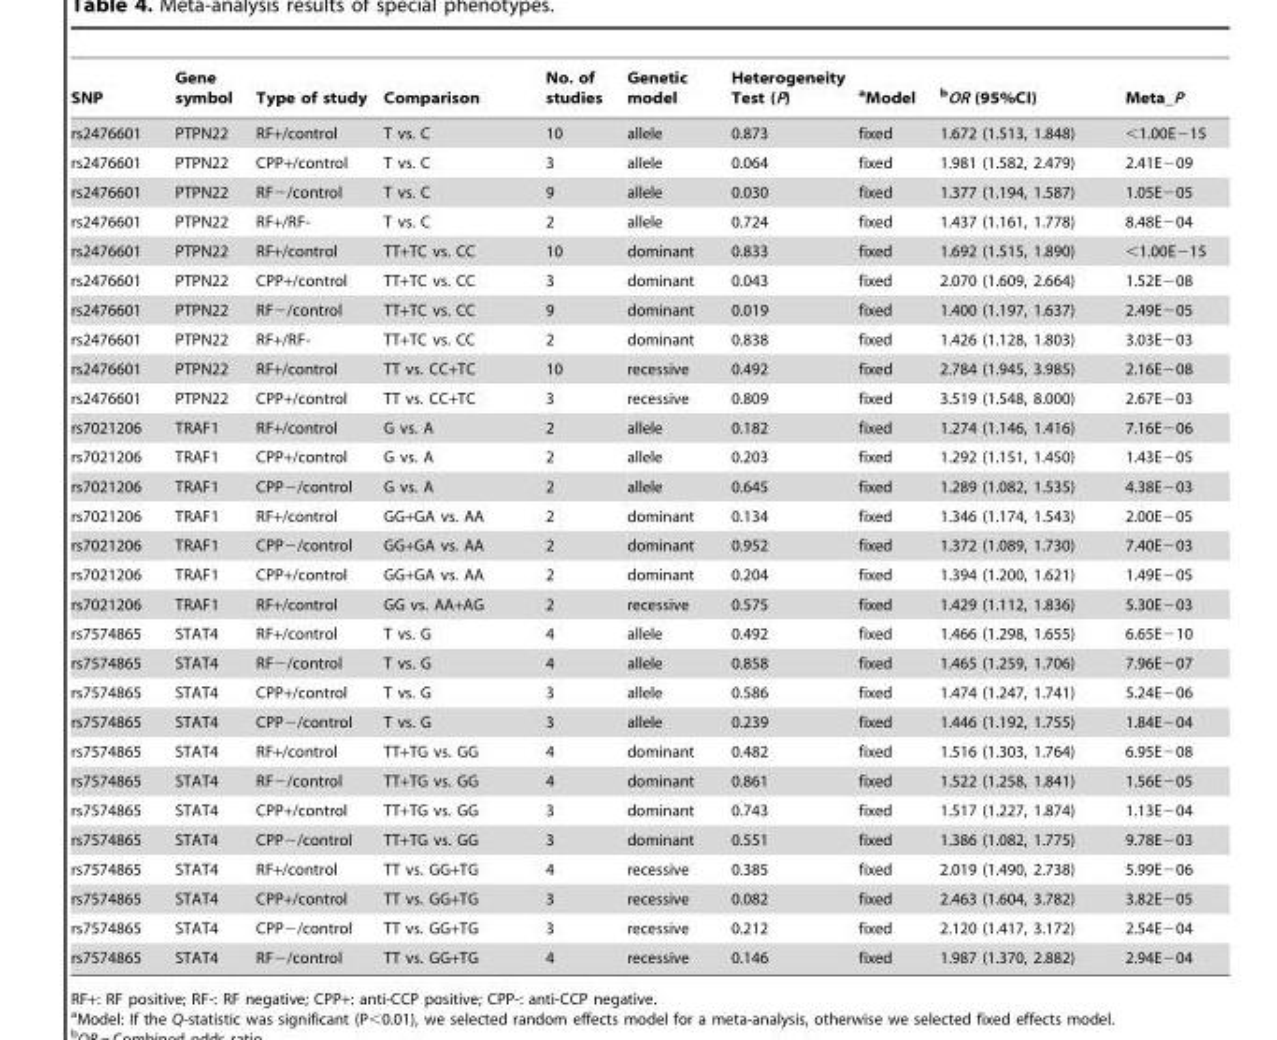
<table><thead><tr><td>SNP</td><td>Gene symbol</td><td>Type of study</td><td>Comparison</td><td>No. of studies</td><td>Genetic model</td><td>Heterogeneity Test (P)</td><td>aModel</td><td>bOR (95%CI)</td><td>Meta_P</td></tr></thead><tbody><tr><td>rs2476601</td><td>PTPN22</td><td>RF+/control</td><td>T vs. C</td><td>10</td><td>allele</td><td>0.873</td><td>fixed</td><td>1.672 (1.513, 1.848)</td><td>&lt;1.00E−15</td></tr><tr><td>rs2476601</td><td>PTPN22</td><td>CPP+/control</td><td>T vs. C</td><td>3</td><td>allele</td><td>0.064</td><td>fixed</td><td>1.981 (1.582, 2.479)</td><td>2.41E−09</td></tr><tr><td>rs2476601</td><td>PTPN22</td><td>RF−/control</td><td>T vs. C</td><td>9</td><td>allele</td><td>0.030</td><td>fixed</td><td>1.377 (1.194, 1.587)</td><td>1.05E−05</td></tr><tr><td>rs2476601</td><td>PTPN22</td><td>RF+/RF-</td><td>T vs. C</td><td>2</td><td>allele</td><td>0.724</td><td>fixed</td><td>1.437 (1.161, 1.778)</td><td>8.48E−04</td></tr><tr><td>rs2476601</td><td>PTPN22</td><td>RF+/control</td><td>TT+TC vs. CC</td><td>10</td><td>dominant</td><td>0.833</td><td>fixed</td><td>1.692 (1.515, 1.890)</td><td>&lt;1.00E−15</td></tr><tr><td>rs2476601</td><td>PTPN22</td><td>CPP+/control</td><td>TT+TC vs. CC</td><td>3</td><td>dominant</td><td>0.043</td><td>fixed</td><td>2.070 (1.609, 2.664)</td><td>1.52E−08</td></tr><tr><td>rs2476601</td><td>PTPN22</td><td>RF−/control</td><td>TT+TC vs. CC</td><td>9</td><td>dominant</td><td>0.019</td><td>fixed</td><td>1.400 (1.197, 1.637)</td><td>2.49E−05</td></tr><tr><td>rs2476601</td><td>PTPN22</td><td>RF+/RF-</td><td>TT+TC vs. CC</td><td>2</td><td>dominant</td><td>0.838</td><td>fixed</td><td>1.426 (1.128, 1.803)</td><td>3.03E−03</td></tr><tr><td>rs2476601</td><td>PTPN22</td><td>RF+/control</td><td>TT vs. CC+TC</td><td>10</td><td>recessive</td><td>0.492</td><td>fixed</td><td>2.784 (1.945, 3.985)</td><td>2.16E−08</td></tr><tr><td>rs2476601</td><td>PTPN22</td><td>CPP+/control</td><td>TT vs. CC+TC</td><td>3</td><td>recessive</td><td>0.809</td><td>fixed</td><td>3.519 (1.548, 8.000)</td><td>2.67E−03</td></tr><tr><td>rs7021206</td><td>TRAF1</td><td>RF+/control</td><td>G vs. A</td><td>2</td><td>allele</td><td>0.182</td><td>fixed</td><td>1.274 (1.146, 1.416)</td><td>7.16E−06</td></tr><tr><td>rs7021206</td><td>TRAF1</td><td>CPP+/control</td><td>G vs. A</td><td>2</td><td>allele</td><td>0.203</td><td>fixed</td><td>1.292 (1.151, 1.450)</td><td>1.43E−05</td></tr><tr><td>rs7021206</td><td>TRAF1</td><td>CPP−/control</td><td>G vs. A</td><td>2</td><td>allele</td><td>0.645</td><td>fixed</td><td>1.289 (1.082, 1.535)</td><td>4.38E−03</td></tr><tr><td>rs7021206</td><td>TRAF1</td><td>RF+/control</td><td>GG+GA vs. AA</td><td>2</td><td>dominant</td><td>0.134</td><td>fixed</td><td>1.346 (1.174, 1.543)</td><td>2.00E−05</td></tr><tr><td>rs7021206</td><td>TRAF1</td><td>CPP−/control</td><td>GG+GA vs. AA</td><td>2</td><td>dominant</td><td>0.952</td><td>fixed</td><td>1.372 (1.089, 1.730)</td><td>7.40E−03</td></tr><tr><td>rs7021206</td><td>TRAF1</td><td>CPP+/control</td><td>GG+GA vs. AA</td><td>2</td><td>dominant</td><td>0.204</td><td>fixed</td><td>1.394 (1.200, 1.621)</td><td>1.49E−05</td></tr><tr><td>rs7021206</td><td>TRAF1</td><td>RF+/control</td><td>GG vs. AA+AG</td><td>2</td><td>recessive</td><td>0.575</td><td>fixed</td><td>1.429 (1.112, 1.836)</td><td>5.30E−03</td></tr><tr><td>rs7574865</td><td>STAT4</td><td>RF+/control</td><td>T vs. G</td><td>4</td><td>allele</td><td>0.492</td><td>fixed</td><td>1.466 (1.298, 1.655)</td><td>6.65E−10</td></tr><tr><td>rs7574865</td><td>STAT4</td><td>RF−/control</td><td>T vs. G</td><td>4</td><td>allele</td><td>0.858</td><td>fixed</td><td>1.465 (1.259, 1.706)</td><td>7.96E−07</td></tr><tr><td>rs7574865</td><td>STAT4</td><td>CPP+/control</td><td>T vs. G</td><td>3</td><td>allele</td><td>0.586</td><td>fixed</td><td>1.474 (1.247, 1.741)</td><td>5.24E−06</td></tr><tr><td>rs7574865</td><td>STAT4</td><td>CPP−/control</td><td>T vs. G</td><td>3</td><td>allele</td><td>0.239</td><td>fixed</td><td>1.446 (1.192, 1.755)</td><td>1.84E−04</td></tr><tr><td>rs7574865</td><td>STAT4</td><td>RF+/control</td><td>TT+TG vs. GG</td><td>4</td><td>dominant</td><td>0.482</td><td>fixed</td><td>1.516 (1.303, 1.764)</td><td>6.95E−08</td></tr><tr><td>rs7574865</td><td>STAT4</td><td>RF−/control</td><td>TT+TG vs. GG</td><td>4</td><td>dominant</td><td>0.861</td><td>fixed</td><td>1.522 (1.258, 1.841)</td><td>1.56E−05</td></tr><tr><td>rs7574865</td><td>STAT4</td><td>CPP+/control</td><td>TT+TG vs. GG</td><td>3</td><td>dominant</td><td>0.743</td><td>fixed</td><td>1.517 (1.227, 1.874)</td><td>1.13E−04</td></tr><tr><td>rs7574865</td><td>STAT4</td><td>CPP−/control</td><td>TT+TG vs. GG</td><td>3</td><td>dominant</td><td>0.551</td><td>fixed</td><td>1.386 (1.082, 1.775)</td><td>9.78E−03</td></tr><tr><td>rs7574865</td><td>STAT4</td><td>RF+/control</td><td>TT vs. GG+TG</td><td>4</td><td>recessive</td><td>0.385</td><td>fixed</td><td>2.019 (1.490, 2.738)</td><td>5.99E−06</td></tr><tr><td>rs7574865</td><td>STAT4</td><td>CPP+/control</td><td>TT vs. GG+TG</td><td>3</td><td>recessive</td><td>0.082</td><td>fixed</td><td>2.463 (1.604, 3.782)</td><td>3.82E−05</td></tr><tr><td>rs7574865</td><td>STAT4</td><td>CPP−/control</td><td>TT vs. GG+TG</td><td>3</td><td>recessive</td><td>0.212</td><td>fixed</td><td>2.120 (1.417, 3.172)</td><td>2.54E−04</td></tr><tr><td>rs7574865</td><td>STAT4</td><td>RF−/control</td><td>TT vs. GG+TG</td><td>4</td><td>recessive</td><td>0.146</td><td>fixed</td><td>1.987 (1.370, 2.882)</td><td>2.94E−04</td></tr></tbody></table>